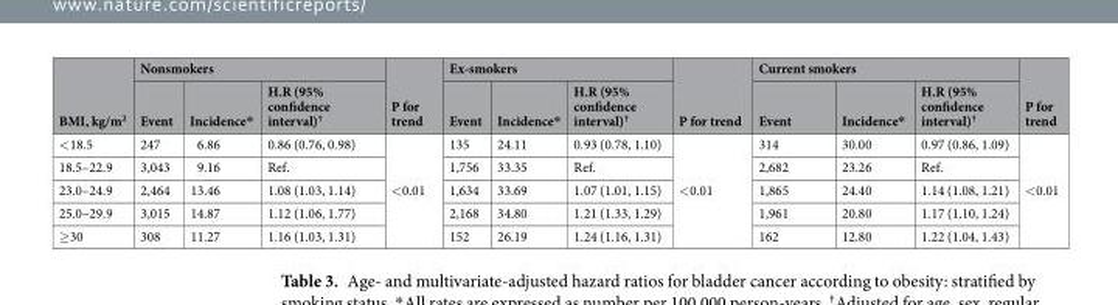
<table><thead><tr><td rowspan="2">BMI, kg/m<sup>2</sup></td><td colspan="3">Nonsmokers</td><td rowspan="2">P for trend</td><td colspan="3">Ex-smokers</td><td rowspan="2">P for trend</td><td colspan="3">Current smokers</td><td rowspan="2">P for trend</td></tr><tr><td>Event</td><td>Incidence*</td><td>H.R (95% confidence interval)<sup>†</sup></td><td>Event</td><td>Incidence*</td><td>H.R (95% confidence interval)<sup>†</sup></td><td>Event</td><td>Incidence*</td><td>H.R (95% confidence interval)<sup>†</sup></td></tr></thead><tbody><tr><td>&lt;18.5</td><td>247</td><td>6.86</td><td>0.86 (0.76, 0.98)</td><td rowspan="5">&lt;0.01</td><td>135</td><td>24.11</td><td>0.93 (0.78, 1.10)</td><td rowspan="5">&lt;0.01</td><td>314</td><td>30.00</td><td>0.97 (0.86, 1.09)</td><td rowspan="5">&lt;0.01</td></tr><tr><td>18.5–22.9</td><td>3,043</td><td>9.16</td><td>Ref.</td><td>1,756</td><td>33.35</td><td>Ref.</td><td>2,682</td><td>23.26</td><td>Ref.</td></tr><tr><td>23.0–24.9</td><td>2,464</td><td>13.46</td><td>1.08 (1.03, 1.14)</td><td>1,634</td><td>33.69</td><td>1.07 (1.01, 1.15)</td><td>1,865</td><td>24.40</td><td>1.14 (1.08, 1.21)</td></tr><tr><td>25.0–29.9</td><td>3,015</td><td>14.87</td><td>1.12 (1.06, 1.77)</td><td>2,168</td><td>34.80</td><td>1.21 (1.33, 1.29)</td><td>1,961</td><td>20.80</td><td>1.17 (1.10, 1.24)</td></tr><tr><td>≥30</td><td>308</td><td>11.27</td><td>1.16 (1.03, 1.31)</td><td>152</td><td>26.19</td><td>1.24 (1.16, 1.31)</td><td>162</td><td>12.80</td><td>1.22 (1.04, 1.43)</td></tr></tbody></table>